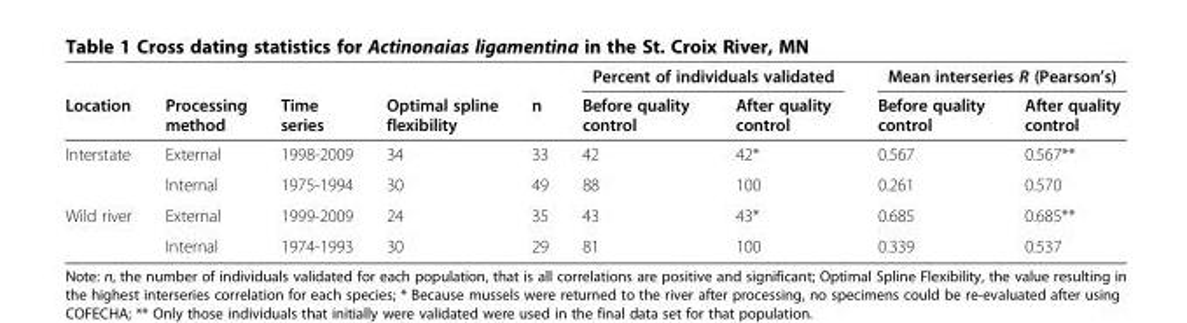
<table><thead><tr><td rowspan="2">Location</td><td rowspan="2">Processing method</td><td rowspan="2">Time series</td><td rowspan="2">Optimal spline flexibility</td><td rowspan="2">n</td><td colspan="2">Percent of individuals validated</td><td colspan="2">Mean interseries R (Pearson’s)</td></tr><tr><td>Before quality control</td><td>After quality control</td><td>Before quality control</td><td>After quality control</td></tr></thead><tbody><tr><td rowspan="2">Interstate</td><td>External</td><td>1998-2009</td><td>34</td><td>33</td><td>42</td><td>42*</td><td>0.567</td><td>0.567**</td></tr><tr><td>Internal</td><td>1975-1994</td><td>30</td><td>49</td><td>88</td><td>100</td><td>0.261</td><td>0.570</td></tr><tr><td rowspan="2">Wild river</td><td>External</td><td>1999-2009</td><td>24</td><td>35</td><td>43</td><td>43*</td><td>0.685</td><td>0.685**</td></tr><tr><td>Internal</td><td>1974-1993</td><td>30</td><td>29</td><td>81</td><td>100</td><td>0.339</td><td>0.537</td></tr></tbody></table>